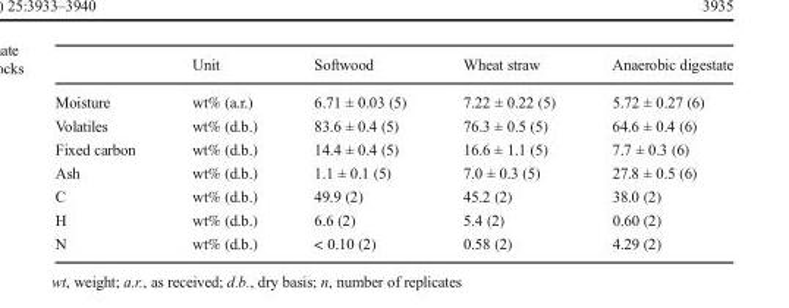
<table><thead><tr><td></td><td>Unit</td><td>Softwood</td><td>Wheat straw</td><td>Anaerobic digestate</td></tr></thead><tbody><tr><td>Moisture</td><td>wt% (a.r.)</td><td>6.71 ± 0.03 (5)</td><td>7.22 ± 0.22 (5)</td><td>5.72 ± 0.27 (6)</td></tr><tr><td>Volatiles</td><td>wt% (d.b.)</td><td>83.6 ± 0.4 (5)</td><td>76.3 ± 0.5 (5)</td><td>64.6 ± 0.4 (6)</td></tr><tr><td>Fixed carbon</td><td>wt% (d.b.)</td><td>14.4 ± 0.4 (5)</td><td>16.6 ± 1.1 (5)</td><td>7.7 ± 0.3 (6)</td></tr><tr><td>Ash</td><td>wt% (d.b.)</td><td>1.1 ± 0.1 (5)</td><td>7.0 ± 0.3 (5)</td><td>27.8 ± 0.5 (6)</td></tr><tr><td>C</td><td>wt% (d.b.)</td><td>49.9 (2)</td><td>45.2 (2)</td><td>38.0 (2)</td></tr><tr><td>H</td><td>wt% (d.b.)</td><td>6.6 (2)</td><td>5.4 (2)</td><td>0.60 (2)</td></tr><tr><td>N</td><td>wt% (d.b.)</td><td>&lt; 0.10 (2)</td><td>0.58 (2)</td><td>4.29 (2)</td></tr></tbody></table>